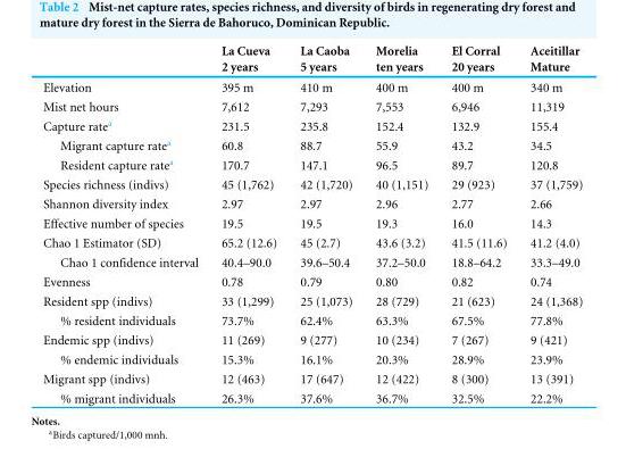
<table><thead><tr><td rowspan="2"></td><td rowspan="2">La Cueva 2 years</td><td rowspan="2">La Caoba 5 years</td><td rowspan="2">Morelia ten years</td><td rowspan="2">El Corral 20 years</td><td rowspan="2">Aceitillar Mature</td></tr><tr></tr></thead><tbody><tr><td>Elevation</td><td>395 m</td><td>410 m</td><td>400 m</td><td>400 m</td><td>340 m</td></tr><tr><td>Mist net hours</td><td>7,612</td><td>7,293</td><td>7,553</td><td>6,946</td><td>11,319</td></tr><tr><td>Capture rate<sup>a</sup></td><td>231.5</td><td>235.8</td><td>152.4</td><td>132.9</td><td>155.4</td></tr><tr><td>Migrant capture rate<sup>a</sup></td><td>60.8</td><td>88.7</td><td>55.9</td><td>43.2</td><td>34.5</td></tr><tr><td>Resident capture rate<sup>a</sup></td><td>170.7</td><td>147.1</td><td>96.5</td><td>89.7</td><td>120.8</td></tr><tr><td>Species richness (indivs)</td><td>45 (1,762)</td><td>42 (1,720)</td><td>40 (1,151)</td><td>29 (923)</td><td>37 (1,759)</td></tr><tr><td>Shannon diversity index</td><td>2.97</td><td>2.97</td><td>2.96</td><td>2.77</td><td>2.66</td></tr><tr><td>Effective number of species</td><td>19.5</td><td>19.5</td><td>19.3</td><td>16.0</td><td>14.3</td></tr><tr><td>Chao 1 Estimator (SD)</td><td>65.2 (12.6)</td><td>45 (2.7)</td><td>43.6 (3.2)</td><td>41.5 (11.6)</td><td>41.2 (4.0)</td></tr><tr><td>Chao 1 confidence interval</td><td>40.4–90.0</td><td>39.6–50.4</td><td>37.2–50.0</td><td>18.8–64.2</td><td>33.3–49.0</td></tr><tr><td>Evenness</td><td>0.78</td><td>0.79</td><td>0.80</td><td>0.82</td><td>0.74</td></tr><tr><td>Resident spp (indivs)</td><td>33 (1,299)</td><td>25 (1,073)</td><td>28 (729)</td><td>21 (623)</td><td>24 (1,368)</td></tr><tr><td>% resident individuals</td><td>73.7%</td><td>62.4%</td><td>63.3%</td><td>67.5%</td><td>77.8%</td></tr><tr><td>Endemic spp (indivs)</td><td>11 (269)</td><td>9 (277)</td><td>10 (234)</td><td>7 (267)</td><td>9 (421)</td></tr><tr><td>% endemic individuals</td><td>15.3%</td><td>16.1%</td><td>20.3%</td><td>28.9%</td><td>23.9%</td></tr><tr><td>Migrant spp (indivs)</td><td>12 (463)</td><td>17 (647)</td><td>12 (422)</td><td>8 (300)</td><td>13 (391)</td></tr><tr><td>% migrant individuals</td><td>26.3%</td><td>37.6%</td><td>36.7%</td><td>32.5%</td><td>22.2%</td></tr></tbody></table>